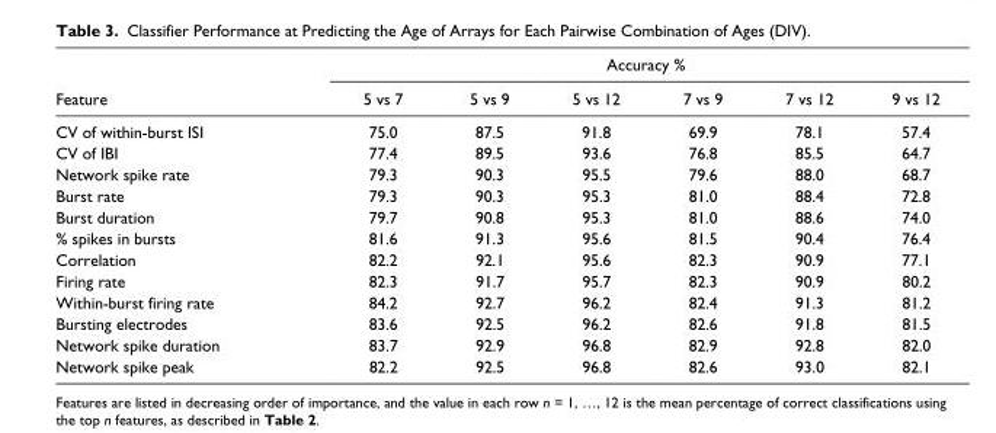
<table><thead><tr><td rowspan="2">Feature</td><td colspan="6">Accuracy %</td></tr><tr><td>5 vs 7</td><td>5 vs 9</td><td>5 vs 12</td><td>7 vs 9</td><td>7 vs 12</td><td>9 vs 12</td></tr></thead><tbody><tr><td>CV of within-burst ISI</td><td>75.0</td><td>87.5</td><td>91.8</td><td>69.9</td><td>78.1</td><td>57.4</td></tr><tr><td>CV of IBI</td><td>77.4</td><td>89.5</td><td>93.6</td><td>76.8</td><td>85.5</td><td>64.7</td></tr><tr><td>Network spike rate</td><td>79.3</td><td>90.3</td><td>95.5</td><td>79.6</td><td>88.0</td><td>68.7</td></tr><tr><td>Burst rate</td><td>79.3</td><td>90.3</td><td>95.3</td><td>81.0</td><td>88.4</td><td>72.8</td></tr><tr><td>Burst duration</td><td>79.7</td><td>90.8</td><td>95.3</td><td>81.0</td><td>88.6</td><td>74.0</td></tr><tr><td>% spikes in bursts</td><td>81.6</td><td>91.3</td><td>95.6</td><td>81.5</td><td>90.4</td><td>76.4</td></tr><tr><td>Correlation</td><td>82.2</td><td>92.1</td><td>95.6</td><td>82.3</td><td>90.9</td><td>77.1</td></tr><tr><td>Firing rate</td><td>82.3</td><td>91.7</td><td>95.7</td><td>82.3</td><td>90.9</td><td>80.2</td></tr><tr><td>Within-burst firing rate</td><td>84.2</td><td>92.7</td><td>96.2</td><td>82.4</td><td>91.3</td><td>81.2</td></tr><tr><td>Bursting electrodes</td><td>83.6</td><td>92.5</td><td>96.2</td><td>82.6</td><td>91.8</td><td>81.5</td></tr><tr><td>Network spike duration</td><td>83.7</td><td>92.9</td><td>96.8</td><td>82.9</td><td>92.8</td><td>82.0</td></tr><tr><td>Network spike peak</td><td>82.2</td><td>92.5</td><td>96.8</td><td>82.6</td><td>93.0</td><td>82.1</td></tr></tbody></table>